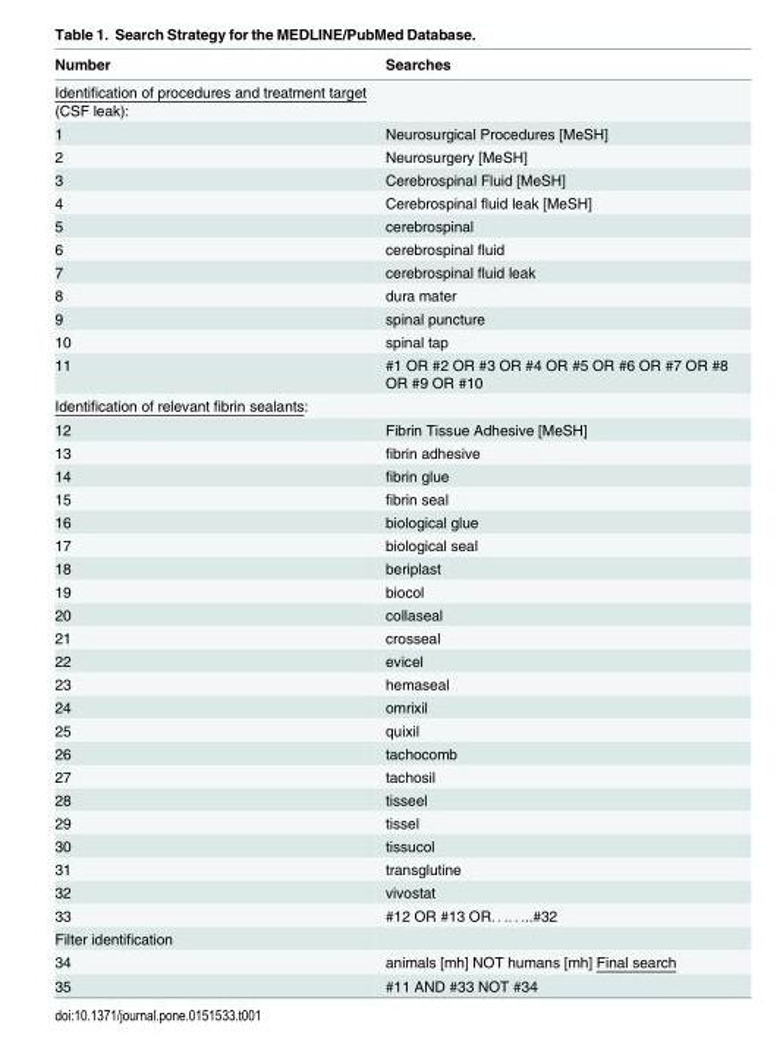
<table><thead><tr><td>Number</td><td>Searches</td></tr></thead><tbody><tr><td colspan="2">Identification of procedures and treatment target (CSF leak):</td></tr><tr><td>1</td><td>Neurosurgical Procedures [MeSH]</td></tr><tr><td>2</td><td>Neurosurgery [MeSH]</td></tr><tr><td>3</td><td>Cerebrospinal Fluid [MeSH]</td></tr><tr><td>4</td><td>Cerebrospinal fluid leak [MeSH]</td></tr><tr><td>5</td><td>cerebrospinal</td></tr><tr><td>6</td><td>cerebrospinal fluid</td></tr><tr><td>7</td><td>cerebrospinal fluid leak</td></tr><tr><td>8</td><td>dura mater</td></tr><tr><td>9</td><td>spinal puncture</td></tr><tr><td>10</td><td>spinal tap</td></tr><tr><td>11</td><td>#1 OR #2 OR #3 OR #4 OR #5 OR #6 OR #7 OR #8 OR #9 OR #10</td></tr><tr><td colspan="2">Identification of relevant fibrin sealants:</td></tr><tr><td>12</td><td>Fibrin Tissue Adhesive [MeSH]</td></tr><tr><td>13</td><td>fibrin adhesive</td></tr><tr><td>14</td><td>fibrin glue</td></tr><tr><td>15</td><td>fibrin seal</td></tr><tr><td>16</td><td>biological glue</td></tr><tr><td>17</td><td>biological seal</td></tr><tr><td>18</td><td>beriplast</td></tr><tr><td>19</td><td>biocol</td></tr><tr><td>20</td><td>collaseal</td></tr><tr><td>21</td><td>crosseal</td></tr><tr><td>22</td><td>evicel</td></tr><tr><td>23</td><td>hemaseal</td></tr><tr><td>24</td><td>omrixil</td></tr><tr><td>25</td><td>quixil</td></tr><tr><td>26</td><td>tachocomb</td></tr><tr><td>27</td><td>tachosil</td></tr><tr><td>28</td><td>tisseel</td></tr><tr><td>29</td><td>tissel</td></tr><tr><td>30</td><td>tissucol</td></tr><tr><td>31</td><td>transglutine</td></tr><tr><td>32</td><td>vivostat</td></tr><tr><td>33</td><td>#12 OR #13 OR. . .. . ...#32</td></tr><tr><td colspan="2">Filter identification</td></tr><tr><td>34</td><td>animals [mh] NOT humans [mh] Final search</td></tr><tr><td>35</td><td>#11 AND #33 NOT #34</td></tr></tbody></table>